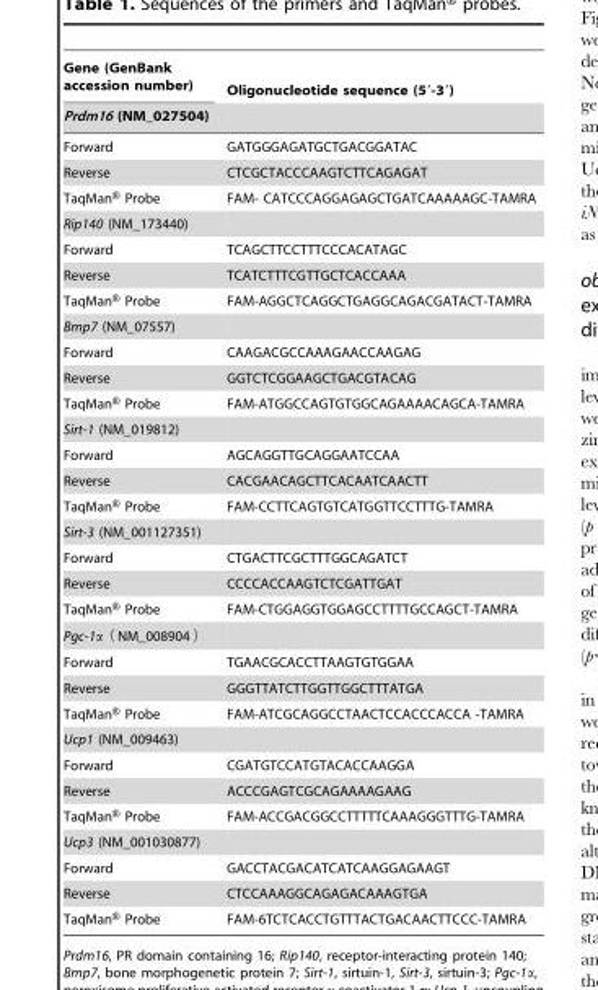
<table><thead><tr><td rowspan="2">Gene (GenBank accession number) Prdm16 (NM_027504)</td><td rowspan="2">Oligonucleotide sequence (5′-3′)</td></tr><tr></tr></thead><tbody><tr><td>Forward</td><td>GATGGGAGATGCTGACGGATAC</td></tr><tr><td>Reverse</td><td>CTCGCTACCCAAGTCTTCAGAGAT</td></tr><tr><td>TaqMan® Probe</td><td>FAM- CATCCCAGGAGAGCTGATCAAAAAGC-TAMRA</td></tr><tr><td colspan="2">Rip140 (NM_173440)</td></tr><tr><td>Forward</td><td>TCAGCTTCCTTTCCCACATAGC</td></tr><tr><td>Reverse</td><td>TCATCTTTCGTTGCTCACCAAA</td></tr><tr><td>TaqMan® Probe</td><td>FAM-AGGCTCAGGCTGAGGCAGACGATACT-TAMRA</td></tr><tr><td colspan="2">Bmp7 (NM_07557)</td></tr><tr><td>Forward</td><td>CAAGACGCCAAAGAACCAAGAG</td></tr><tr><td>Reverse</td><td>GGTCTCGGAAGCTGACGTACAG</td></tr><tr><td>TaqMan® Probe</td><td>FAM-ATGGCCAGTGTGGCAGAAAACAGCA-TAMRA</td></tr><tr><td colspan="2">Sirt-1 (NM_019812)</td></tr><tr><td>Forward</td><td>AGCAGGTTGCAGGAATCCAA</td></tr><tr><td>Reverse</td><td>CACGAACAGCTTCACAATCAACTT</td></tr><tr><td>TaqMan® Probe</td><td>FAM-CCTTCAGTGTCATGGTTCCTTTG-TAMRA</td></tr><tr><td colspan="2">Sirt-3 (NM_001127351)</td></tr><tr><td>Forward</td><td>CTGACTTCGCTTTGGCAGATCT</td></tr><tr><td>Reverse</td><td>CCCCACCAAGTCTCGATTGAT</td></tr><tr><td>TaqMan® Probe</td><td>FAM-CTGGAGGTGGAGCCTTTTGCCAGCT-TAMRA</td></tr><tr><td colspan="2">Pgc-1α (NM_008904)</td></tr><tr><td>Forward</td><td>TGAACGCACCTTAAGTGTGGAA</td></tr><tr><td>Reverse</td><td>GGGTTATCTTGGTTGGCTTTATGA</td></tr><tr><td>TaqMan® Probe</td><td>FAM-ATCGCAGGCCTAACTCCACCCACCA -TAMRA</td></tr><tr><td colspan="2">Ucp1 (NM_009463)</td></tr><tr><td>Forward</td><td>CGATGTCCATGTACACCAAGGA</td></tr><tr><td>Reverse</td><td>ACCCGAGTCGCAGAAAAGAAG</td></tr><tr><td>TaqMan® Probe</td><td>FAM-ACCGACGGCCTTTTTCAAAGGGTTTG-TAMRA</td></tr><tr><td colspan="2">Ucp3 (NM_001030877)</td></tr><tr><td>Forward</td><td>GACCTACGACATCATCAAGGAGAAGT</td></tr><tr><td>Reverse</td><td>CTCCAAAGGCAGAGACAAAGTGA</td></tr><tr><td>TaqMan® Probe</td><td>FAM-6TCTCACCTGTTTACTGACAACTTCCC-TAMRA</td></tr></tbody></table>